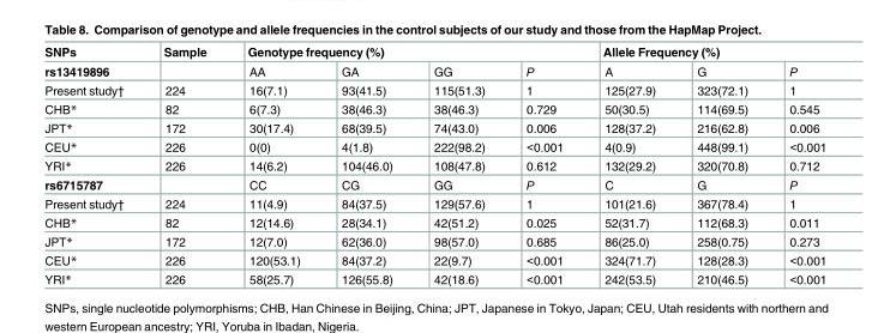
<table><thead><tr><td rowspan="2">SNPs rs13419896</td><td rowspan="2">Sample</td><td colspan="4">Genotype frequency (%)</td><td colspan="3">Allele Frequency (%)</td></tr><tr><td>AA</td><td>GA</td><td>GG</td><td>P</td><td>A</td><td>G</td><td>P</td></tr></thead><tbody><tr><td>Present study†</td><td>224</td><td>16(7.1)</td><td>93(41.5)</td><td>115(51.3)</td><td>1</td><td>125(27.9)</td><td>323(72.1)</td><td>1</td></tr><tr><td>CHB*</td><td>82</td><td>6(7.3)</td><td>38(46.3)</td><td>38(46.3)</td><td>0.729</td><td>50(30.5)</td><td>114(69.5)</td><td>0.545</td></tr><tr><td>JPT*</td><td>172</td><td>30(17.4)</td><td>68(39.5)</td><td>74(43.0)</td><td>0.006</td><td>128(37.2)</td><td>216(62.8)</td><td>0.006</td></tr><tr><td>CEU*</td><td>226</td><td>0(0)</td><td>4(1.8)</td><td>222(98.2)</td><td>&lt;0.001</td><td>4(0.9)</td><td>448(99.1)</td><td>&lt;0.001</td></tr><tr><td>YRI*</td><td>226</td><td>14(6.2)</td><td>104(46.0)</td><td>108(47.8)</td><td>0.612</td><td>132(29.2)</td><td>320(70.8)</td><td>0.712</td></tr><tr><td>rs6715787</td><td></td><td>CC</td><td>CG</td><td>GG</td><td>P</td><td>C</td><td>G</td><td>P</td></tr><tr><td>Present study†</td><td>224</td><td>11(4.9)</td><td>84(37.5)</td><td>129(57.6)</td><td>1</td><td>101(21.6)</td><td>367(78.4)</td><td>1</td></tr><tr><td>CHB*</td><td>82</td><td>12(14.6)</td><td>28(34.1)</td><td>42(51.2)</td><td>0.025</td><td>52(31.7)</td><td>112(68.3)</td><td>0.011</td></tr><tr><td>JPT*</td><td>172</td><td>12(7.0)</td><td>62(36.0)</td><td>98(57.0)</td><td>0.685</td><td>86(25.0)</td><td>258(0.75)</td><td>0.273</td></tr><tr><td>CEU*</td><td>226</td><td>120(53.1)</td><td>84(37.2)</td><td>22(9.7)</td><td>&lt;0.001</td><td>324(71.7)</td><td>128(28.3)</td><td>&lt;0.001</td></tr><tr><td>YRI*</td><td>226</td><td>58(25.7)</td><td>126(55.8)</td><td>42(18.6)</td><td>&lt;0.001</td><td>242(53.5)</td><td>210(46.5)</td><td>&lt;0.001</td></tr></tbody></table>